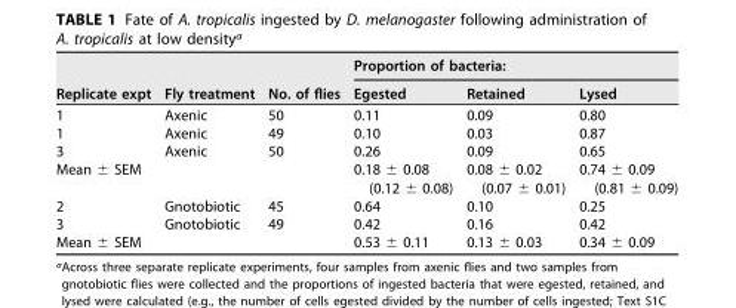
<table><thead><tr><td rowspan="2">Replicate expt</td><td rowspan="2">Fly treatment</td><td rowspan="2">No. of flies</td><td colspan="3">Proportion of bacteria:</td></tr><tr><td>Egested</td><td>Retained</td><td>Lysed</td></tr></thead><tbody><tr><td>1</td><td>Axenic</td><td>50</td><td>0.11</td><td>0.09</td><td>0.80</td></tr><tr><td>1</td><td>Axenic</td><td>49</td><td>0.10</td><td>0.03</td><td>0.87</td></tr><tr><td>3</td><td>Axenic</td><td>50</td><td>0.26</td><td>0.09</td><td>0.65</td></tr><tr><td>Mean ± SEM</td><td></td><td></td><td>0.18 ± 0.08 (0.12 ± 0.08)</td><td>0.08 ± 0.02 (0.07 ± 0.01)</td><td>0.74 ± 0.09 (0.81 ± 0.09)</td></tr><tr><td>2</td><td>Gnotobiotic</td><td>45</td><td>0.64</td><td>0.10</td><td>0.25</td></tr><tr><td>3</td><td>Gnotobiotic</td><td>49</td><td>0.42</td><td>0.16</td><td>0.42</td></tr><tr><td>Mean ± SEM</td><td></td><td></td><td>0.53 ± 0.11</td><td>0.13 ± 0.03</td><td>0.34 ± 0.09</td></tr></tbody></table>